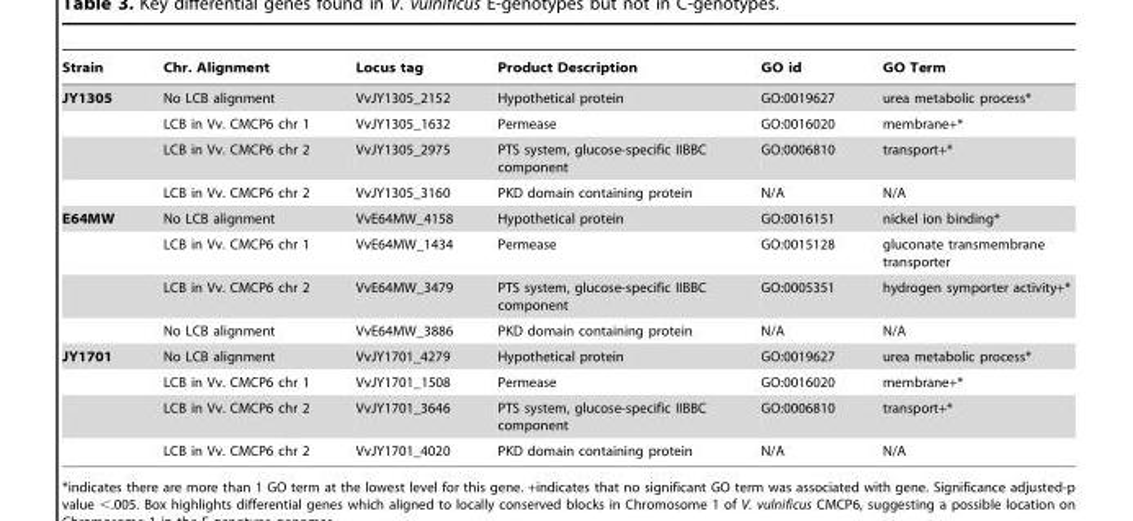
<table><thead><tr><td>Strain</td><td>Chr. Alignment</td><td>Locus tag</td><td>Product Description</td><td>GO id</td><td>GO Term</td></tr></thead><tbody><tr><td rowspan="4">JY1305</td><td>No LCB alignment</td><td>VvJY1305_2152</td><td>Hypothetical protein</td><td>GO:0019627</td><td>urea metabolic process*</td></tr><tr><td>LCB in Vv. CMCP6 chr 1</td><td>VvJY1305_1632</td><td>Permease</td><td>GO:0016020</td><td>membrane+*</td></tr><tr><td>LCB in Vv. CMCP6 chr 2</td><td>VvJY1305_2975</td><td>PTS system, glucose-specific IIBBC component</td><td>GO:0006810</td><td>transport+*</td></tr><tr><td>LCB in Vv. CMCP6 chr 2</td><td>VvJY1305_3160</td><td>PKD domain containing protein</td><td>N/A</td><td>N/A</td></tr><tr><td rowspan="4">E64MW</td><td>No LCB alignment</td><td>VvE64MW_4158</td><td>Hypothetical protein</td><td>GO:0016151</td><td>nickel ion binding*</td></tr><tr><td>LCB in Vv. CMCP6 chr 1</td><td>VvE64MW_1434</td><td>Permease</td><td>GO:0015128</td><td>gluconate transmembrane transporter</td></tr><tr><td>LCB in Vv. CMCP6 chr 2</td><td>VvE64MW_3479</td><td>PTS system, glucose-specific IIBBC component</td><td>GO:0005351</td><td>hydrogen symporter activity+*</td></tr><tr><td>No LCB alignment</td><td>VvE64MW_3886</td><td>PKD domain containing protein</td><td>N/A</td><td>N/A</td></tr><tr><td rowspan="4">JY1701</td><td>No LCB alignment</td><td>VvJY1701_4279</td><td>Hypothetical protein</td><td>GO:0019627</td><td>urea metabolic process*</td></tr><tr><td>LCB in Vv. CMCP6 chr 1</td><td>VvJY1701_1508</td><td>Permease</td><td>GO:0016020</td><td>membrane+*</td></tr><tr><td>LCB in Vv. CMCP6 chr 2</td><td>VvJY1701_3646</td><td>PTS system, glucose-specific IIBBC component</td><td>GO:0006810</td><td>transport+*</td></tr><tr><td>LCB in Vv. CMCP6 chr 2</td><td>VvJY1701_4020</td><td>PKD domain containing protein</td><td>N/A</td><td>N/A</td></tr></tbody></table>